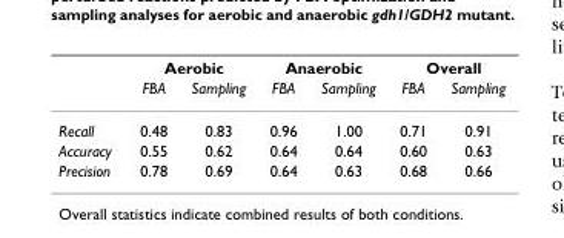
<table><thead><tr><td rowspan="2"></td><td colspan="2">Aerobic</td><td colspan="2">Anaerobic</td><td colspan="2">Overall</td></tr><tr><td>FBA</td><td>Sampling</td><td>FBA</td><td>Sampling</td><td>FBA</td><td>Sampling</td></tr></thead><tbody><tr><td>Recall</td><td>0.48</td><td>0.83</td><td>0.96</td><td>1.00</td><td>0.71</td><td>0.91</td></tr><tr><td>Accuracy</td><td>0.55</td><td>0.62</td><td>0.64</td><td>0.64</td><td>0.60</td><td>0.63</td></tr><tr><td>Precision</td><td>0.78</td><td>0.69</td><td>0.64</td><td>0.63</td><td>0.68</td><td>0.66</td></tr></tbody></table>